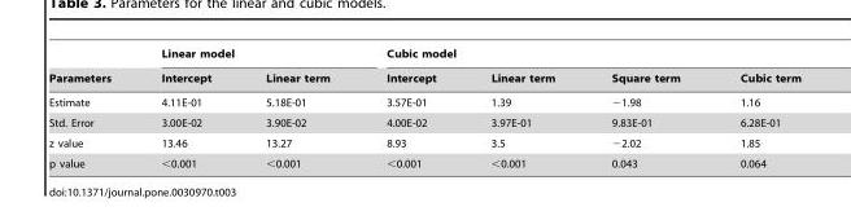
<table><thead><tr><td rowspan="2">Parameters</td><td colspan="2">Linear model</td><td colspan="4">Cubic model</td></tr><tr><td>Intercept</td><td>Linear term</td><td>Intercept</td><td>Linear term</td><td>Square term</td><td>Cubic term</td></tr></thead><tbody><tr><td>Estimate</td><td>4.11E-01</td><td>5.18E-01</td><td>3.57E-01</td><td>1.39</td><td>−1.98</td><td>1.16</td></tr><tr><td>Std. Error</td><td>3.00E-02</td><td>3.90E-02</td><td>4.00E-02</td><td>3.97E-01</td><td>9.83E-01</td><td>6.28E-01</td></tr><tr><td>z value</td><td>13.46</td><td>13.27</td><td>8.93</td><td>3.5</td><td>−2.02</td><td>1.85</td></tr><tr><td>p value</td><td>&lt;0.001</td><td>&lt;0.001</td><td>&lt;0.001</td><td>&lt;0.001</td><td>0.043</td><td>0.064</td></tr></tbody></table>